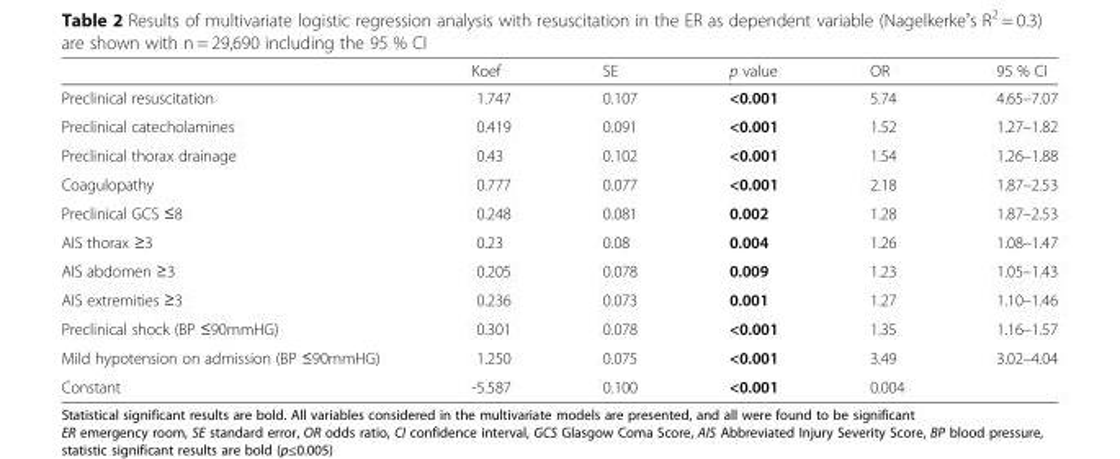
<table><thead><tr><td></td><td>Koef</td><td>SE</td><td>p value</td><td>OR</td><td>95 % CI</td></tr></thead><tbody><tr><td>Preclinical resuscitation</td><td>1.747</td><td>0.107</td><td>&lt;0.001</td><td>5.74</td><td>4.65–7.07</td></tr><tr><td>Preclinical catecholamines</td><td>0.419</td><td>0.091</td><td>&lt;0.001</td><td>1.52</td><td>1.27–1.82</td></tr><tr><td>Preclinical thorax drainage</td><td>0.43</td><td>0.102</td><td>&lt;0.001</td><td>1.54</td><td>1.26–1.88</td></tr><tr><td>Coagulopathy</td><td>0.777</td><td>0.077</td><td>&lt;0.001</td><td>2.18</td><td>1.87–2.53</td></tr><tr><td>Preclinical GCS ≤8</td><td>0.248</td><td>0.081</td><td>0.002</td><td>1.28</td><td>1.87–2.53</td></tr><tr><td>AIS thorax ≥3</td><td>0.23</td><td>0.08</td><td>0.004</td><td>1.26</td><td>1.08–1.47</td></tr><tr><td>AIS abdomen ≥3</td><td>0.205</td><td>0.078</td><td>0.009</td><td>1.23</td><td>1.05–1.43</td></tr><tr><td>AIS extremities ≥3</td><td>0.236</td><td>0.073</td><td>0.001</td><td>1.27</td><td>1.10–1.46</td></tr><tr><td>Preclinical shock (BP ≤90mmHG)</td><td>0.301</td><td>0.078</td><td>&lt;0.001</td><td>1.35</td><td>1.16–1.57</td></tr><tr><td>Mild hypotension on admission (BP ≤90mmHG)</td><td>1.250</td><td>0.075</td><td>&lt;0.001</td><td>3.49</td><td>3.02–4.04</td></tr><tr><td>Constant</td><td>-5.587</td><td>0.100</td><td>&lt;0.001</td><td>0.004</td><td></td></tr></tbody></table>